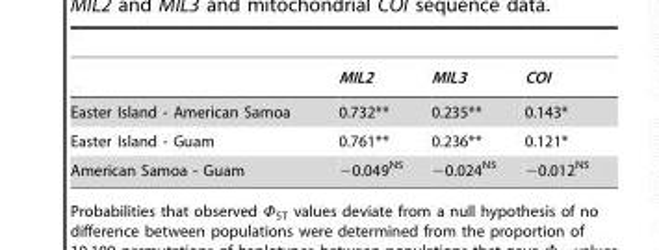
<table><thead><tr><td></td><td>MIL2</td><td>MIL3</td><td>COI</td></tr></thead><tbody><tr><td>Easter Island - American Samoa</td><td>0.732**</td><td>0.235**</td><td>0.143*</td></tr><tr><td>Easter Island - Guam</td><td>0.761**</td><td>0.236**</td><td>0.121*</td></tr><tr><td>American Samoa - Guam</td><td>−0.049<sup>NS</sup></td><td>−0.024<sup>NS</sup></td><td>−0.012<sup>NS</sup></td></tr></tbody></table>